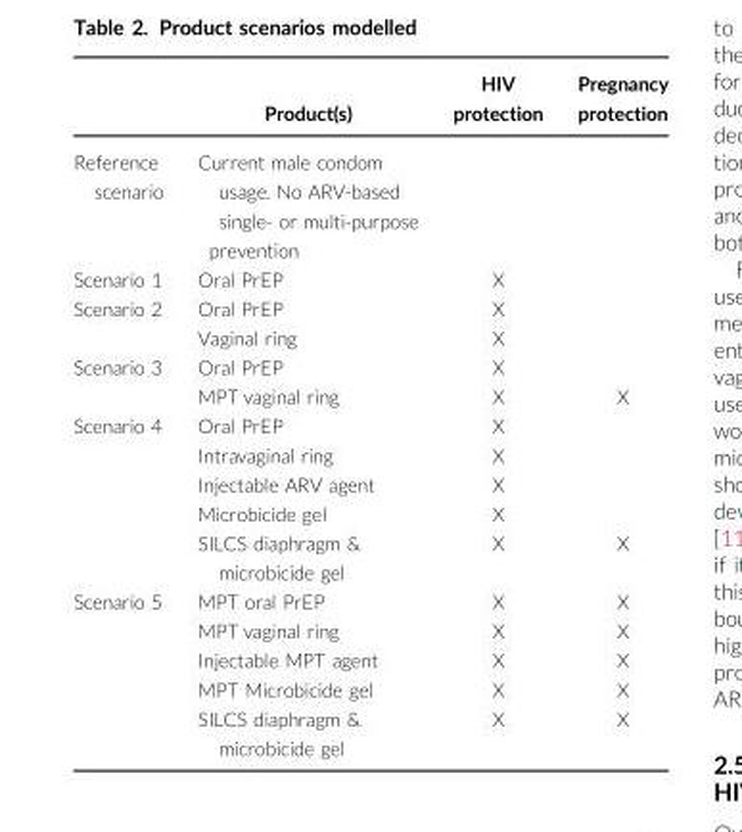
<table><thead><tr><td></td><td>Product(s)</td><td>HIV protection</td><td>Pregnancy protection</td></tr></thead><tbody><tr><td>Reference scenario</td><td>Current male condom usage. No ARV-based single- or multi-purpose prevention</td><td></td><td></td></tr><tr><td>Scenario 1</td><td>Oral PrEP</td><td>X</td><td></td></tr><tr><td rowspan="2">Scenario 2</td><td>Oral PrEP</td><td>X</td><td></td></tr><tr><td>Vaginal ring</td><td>X</td><td></td></tr><tr><td rowspan="2">Scenario 3</td><td>Oral PrEP</td><td>X</td><td></td></tr><tr><td>MPT vaginal ring</td><td>X</td><td>X</td></tr><tr><td rowspan="5">Scenario 4</td><td>Oral PrEP</td><td>X</td><td></td></tr><tr><td>Intravaginal ring</td><td>X</td><td></td></tr><tr><td>Injectable ARV agent</td><td>X</td><td></td></tr><tr><td>Microbicide gel</td><td>X</td><td></td></tr><tr><td>SILCS diaphragm &amp; microbicide gel</td><td>X</td><td>X</td></tr><tr><td rowspan="5">Scenario 5</td><td>MPT oral PrEP</td><td>X</td><td>X</td></tr><tr><td>MPT vaginal ring</td><td>X</td><td>X</td></tr><tr><td>Injectable MPT agent</td><td>X</td><td>X</td></tr><tr><td>MPT Microbicide gel</td><td>X</td><td>X</td></tr><tr><td>SILCS diaphragm &amp; microbicide gel</td><td>X</td><td>X</td></tr></tbody></table>